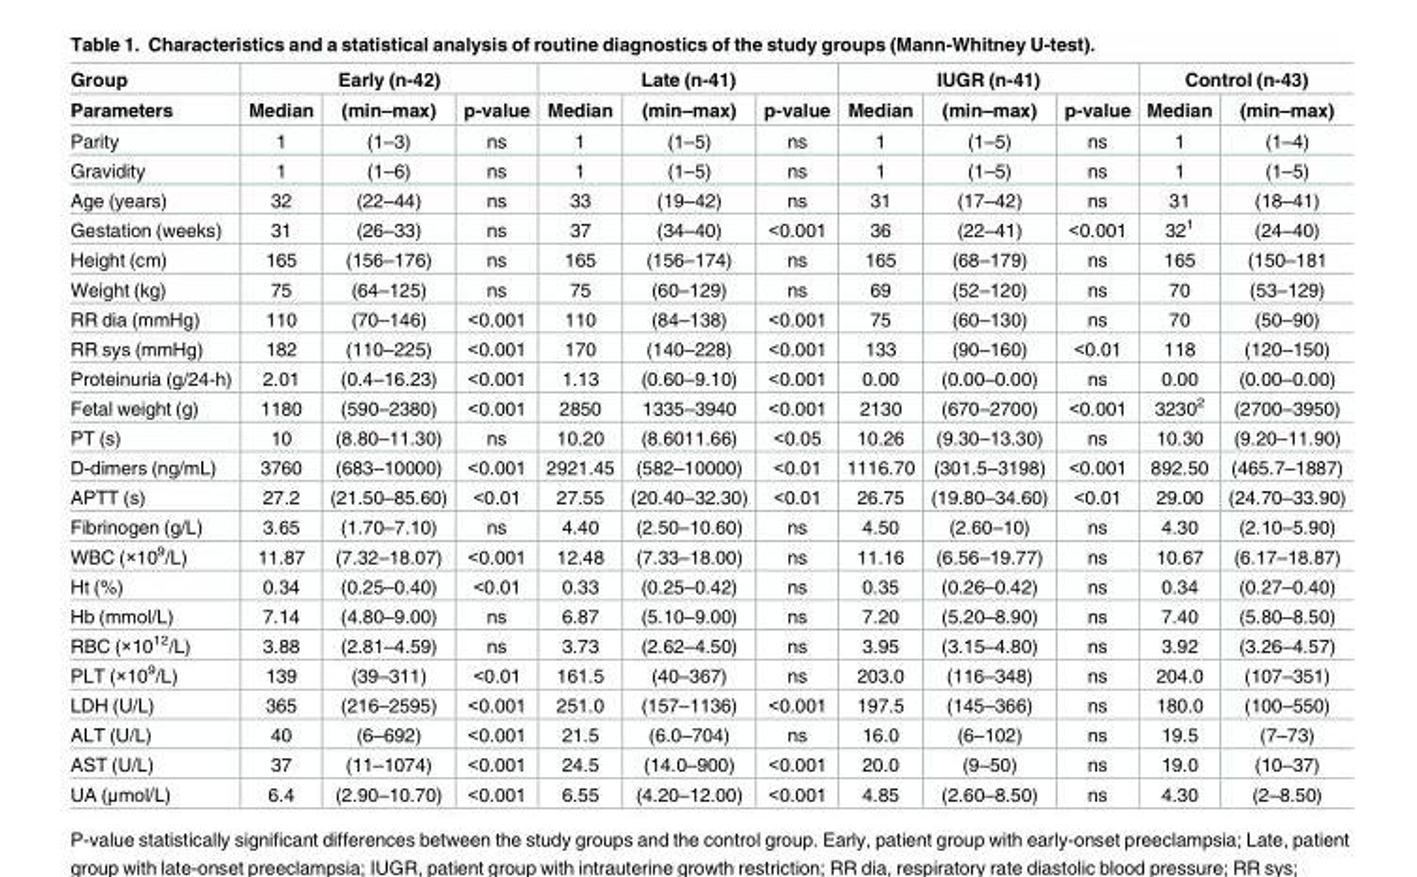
<table><thead><tr><td rowspan="2">Group Parameters</td><td colspan="3">Early (n-42)</td><td colspan="3">Late (n-41)</td><td colspan="3">IUGR (n-41)</td><td colspan="2">Control (n-43)</td></tr><tr><td>Median</td><td>(min–max)</td><td>p-value</td><td>Median</td><td>(min–max)</td><td>p-value</td><td>Median</td><td>(min–max)</td><td>p-value</td><td>Median</td><td>(min–max)</td></tr></thead><tbody><tr><td>Parity</td><td>1</td><td>(1–3)</td><td>ns</td><td>1</td><td>(1–5)</td><td>ns</td><td>1</td><td>(1–5)</td><td>ns</td><td>1</td><td>(1–4)</td></tr><tr><td>Gravidity</td><td>1</td><td>(1–6)</td><td>ns</td><td>1</td><td>(1–5)</td><td>ns</td><td>1</td><td>(1–5)</td><td>ns</td><td>1</td><td>(1–5)</td></tr><tr><td>Age (years)</td><td>32</td><td>(22–44)</td><td>ns</td><td>33</td><td>(19–42)</td><td>ns</td><td>31</td><td>(17–42)</td><td>ns</td><td>31</td><td>(18–41)</td></tr><tr><td>Gestation (weeks)</td><td>31</td><td>(26–33)</td><td>ns</td><td>37</td><td>(34–40)</td><td>&lt;0.001</td><td>36</td><td>(22–41)</td><td>&lt;0.001</td><td>32<sup>1</sup></td><td>(24–40)</td></tr><tr><td>Height (cm)</td><td>165</td><td>(156–176)</td><td>ns</td><td>165</td><td>(156–174)</td><td>ns</td><td>165</td><td>(68–179)</td><td>ns</td><td>165</td><td>(150–181</td></tr><tr><td>Weight (kg)</td><td>75</td><td>(64–125)</td><td>ns</td><td>75</td><td>(60–129)</td><td>ns</td><td>69</td><td>(52–120)</td><td>ns</td><td>70</td><td>(53–129)</td></tr><tr><td>RR dia (mmHg)</td><td>110</td><td>(70–146)</td><td>&lt;0.001</td><td>110</td><td>(84–138)</td><td>&lt;0.001</td><td>75</td><td>(60–130)</td><td>ns</td><td>70</td><td>(50–90)</td></tr><tr><td>RR sys (mmHg)</td><td>182</td><td>(110–225)</td><td>&lt;0.001</td><td>170</td><td>(140–228)</td><td>&lt;0.001</td><td>133</td><td>(90–160)</td><td>&lt;0.01</td><td>118</td><td>(120–150)</td></tr><tr><td>Proteinuria (g/24-h)</td><td>2.01</td><td>(0.4–16.23)</td><td>&lt;0.001</td><td>1.13</td><td>(0.60–9.10)</td><td>&lt;0.001</td><td>0.00</td><td>(0.00–0.00)</td><td>ns</td><td>0.00</td><td>(0.00–0.00)</td></tr><tr><td>Fetal weight (g)</td><td>1180</td><td>(590–2380)</td><td>&lt;0.001</td><td>2850</td><td>1335–3940</td><td>&lt;0.001</td><td>2130</td><td>(670–2700)</td><td>&lt;0.001</td><td>3230<sup>2</sup></td><td>(2700–3950)</td></tr><tr><td>PT (s)</td><td>10</td><td>(8.80–11.30)</td><td>ns</td><td>10.20</td><td>(8.6011.66)</td><td>&lt;0.05</td><td>10.26</td><td>(9.30–13.30)</td><td>ns</td><td>10.30</td><td>(9.20–11.90)</td></tr><tr><td>D-dimers (ng/mL)</td><td>3760</td><td>(683–10000)</td><td>&lt;0.001</td><td>2921.45</td><td>(582–10000)</td><td>&lt;0.01</td><td>1116.70</td><td>(301.5–3198)</td><td>&lt;0.001</td><td>892.50</td><td>(465.7–1887)</td></tr><tr><td>APTT (s)</td><td>27.2</td><td>(21.50–85.60)</td><td>&lt;0.01</td><td>27.55</td><td>(20.40–32.30)</td><td>&lt;0.01</td><td>26.75</td><td>(19.80–34.60)</td><td>&lt;0.01</td><td>29.00</td><td>(24.70–33.90)</td></tr><tr><td>Fibrinogen (g/L)</td><td>3.65</td><td>(1.70–7.10)</td><td>ns</td><td>4.40</td><td>(2.50–10.60)</td><td>ns</td><td>4.50</td><td>(2.60–10)</td><td>ns</td><td>4.30</td><td>(2.10–5.90)</td></tr><tr><td>WBC (×10<sup>9</sup>/L)</td><td>11.87</td><td>(7.32–18.07)</td><td>&lt;0.001</td><td>12.48</td><td>(7.33–18.00)</td><td>ns</td><td>11.16</td><td>(6.56–19.77)</td><td>ns</td><td>10.67</td><td>(6.17–18.87)</td></tr><tr><td>Ht (%)</td><td>0.34</td><td>(0.25–0.40)</td><td>&lt;0.01</td><td>0.33</td><td>(0.25–0.42)</td><td>ns</td><td>0.35</td><td>(0.26–0.42)</td><td>ns</td><td>0.34</td><td>(0.27–0.40)</td></tr><tr><td>Hb (mmol/L)</td><td>7.14</td><td>(4.80–9.00)</td><td>ns</td><td>6.87</td><td>(5.10–9.00)</td><td>ns</td><td>7.20</td><td>(5.20–8.90)</td><td>ns</td><td>7.40</td><td>(5.80–8.50)</td></tr><tr><td>RBC (×10<sup>12</sup>/L)</td><td>3.88</td><td>(2.81–4.59)</td><td>ns</td><td>3.73</td><td>(2.62–4.50)</td><td>ns</td><td>3.95</td><td>(3.15–4.80)</td><td>ns</td><td>3.92</td><td>(3.26–4.57)</td></tr><tr><td>PLT (×10<sup>9</sup>/L)</td><td>139</td><td>(39–311)</td><td>&lt;0.01</td><td>161.5</td><td>(40–367)</td><td>ns</td><td>203.0</td><td>(116–348)</td><td>ns</td><td>204.0</td><td>(107–351)</td></tr><tr><td>LDH (U/L)</td><td>365</td><td>(216–2595)</td><td>&lt;0.001</td><td>251.0</td><td>(157–1136)</td><td>&lt;0.001</td><td>197.5</td><td>(145–366)</td><td>ns</td><td>180.0</td><td>(100–550)</td></tr><tr><td>ALT (U/L)</td><td>40</td><td>(6–692)</td><td>&lt;0.001</td><td>21.5</td><td>(6.0–704)</td><td>ns</td><td>16.0</td><td>(6–102)</td><td>ns</td><td>19.5</td><td>(7–73)</td></tr><tr><td>AST (U/L)</td><td>37</td><td>(11–1074)</td><td>&lt;0.001</td><td>24.5</td><td>(14.0–900)</td><td>&lt;0.001</td><td>20.0</td><td>(9–50)</td><td>ns</td><td>19.0</td><td>(10–37)</td></tr><tr><td>UA (μmol/L)</td><td>6.4</td><td>(2.90–10.70)</td><td>&lt;0.001</td><td>6.55</td><td>(4.20–12.00)</td><td>&lt;0.001</td><td>4.85</td><td>(2.60–8.50)</td><td>ns</td><td>4.30</td><td>(2–8.50)</td></tr></tbody></table>